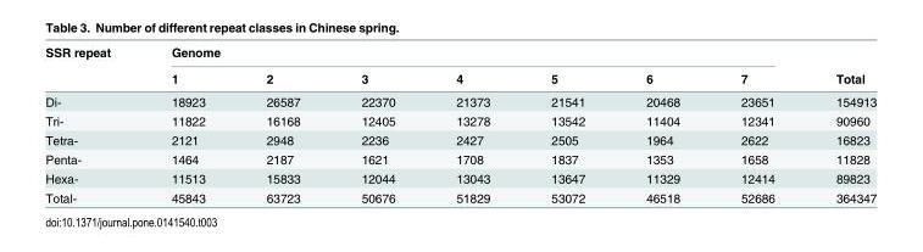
<table><thead><tr><td rowspan="2">SSR repeat</td><td colspan="7">Genome</td><td rowspan="2">Total</td></tr><tr><td>1</td><td>2</td><td>3</td><td>4</td><td>5</td><td>6</td><td>7</td></tr></thead><tbody><tr><td>Di-</td><td>18923</td><td>26587</td><td>22370</td><td>21373</td><td>21541</td><td>20468</td><td>23651</td><td>154913</td></tr><tr><td>Tri-</td><td>11822</td><td>16168</td><td>12405</td><td>13278</td><td>13542</td><td>11404</td><td>12341</td><td>90960</td></tr><tr><td>Tetra-</td><td>2121</td><td>2948</td><td>2236</td><td>2427</td><td>2505</td><td>1964</td><td>2622</td><td>16823</td></tr><tr><td>Penta-</td><td>1464</td><td>2187</td><td>1621</td><td>1708</td><td>1837</td><td>1353</td><td>1658</td><td>11828</td></tr><tr><td>Hexa-</td><td>11513</td><td>15833</td><td>12044</td><td>13043</td><td>13647</td><td>11329</td><td>12414</td><td>89823</td></tr><tr><td>Total-</td><td>45843</td><td>63723</td><td>50676</td><td>51829</td><td>53072</td><td>46518</td><td>52686</td><td>364347</td></tr></tbody></table>